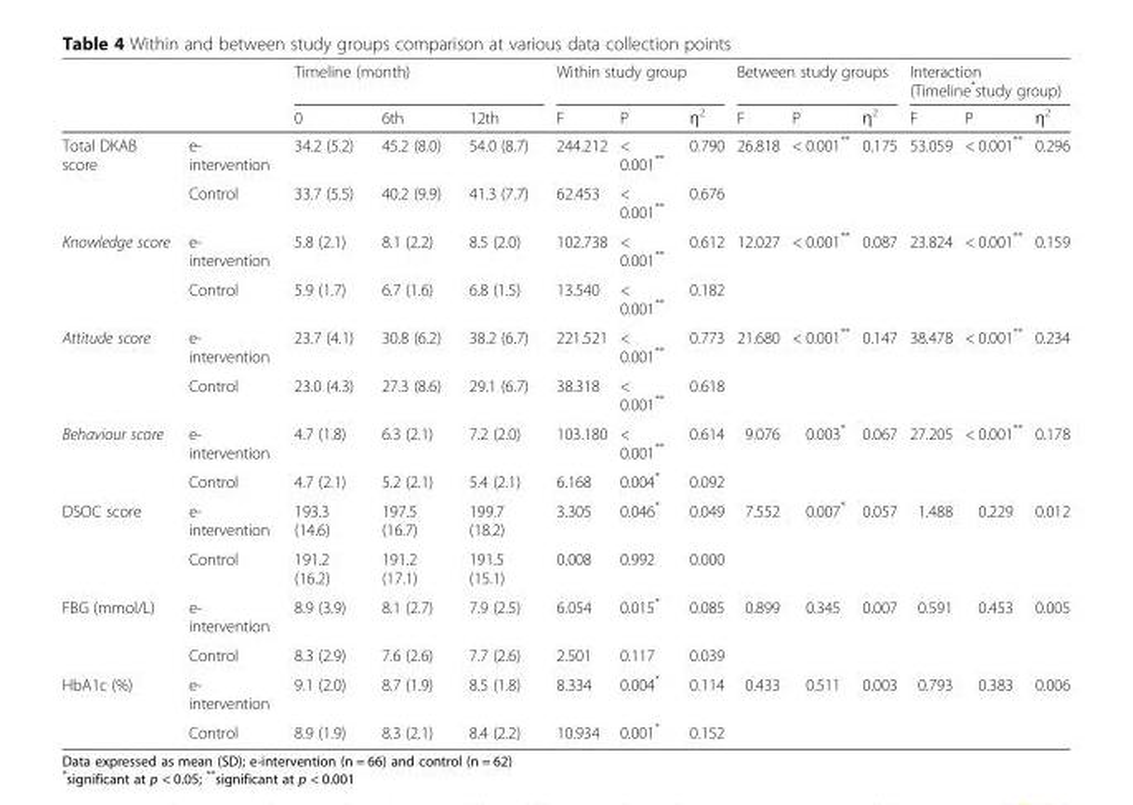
<table><thead><tr><td rowspan="2"></td><td rowspan="2"></td><td colspan="3">Timeline (month)</td><td colspan="3">Within study group</td><td colspan="3">Between study groups</td><td colspan="3">Interaction (Timeline*study group)</td></tr><tr><td>0</td><td>6th</td><td>12th</td><td>F</td><td>P</td><td>ƞ<sup>2</sup></td><td>F</td><td>P</td><td>ƞ<sup>2</sup></td><td>F</td><td>P</td><td>ƞ<sup>2</sup></td></tr></thead><tbody><tr><td rowspan="2">Total DKAB score</td><td>e- intervention</td><td>34.2 (5.2)</td><td>45.2 (8.0)</td><td>54.0 (8.7)</td><td>244.212</td><td>&lt; 0.001**</td><td>0.790</td><td>26.818</td><td>&lt; 0.001**</td><td>0.175</td><td>53.059</td><td>&lt; 0.001**</td><td>0.296</td></tr><tr><td>Control</td><td>33.7 (5.5)</td><td>40.2 (9.9)</td><td>41.3 (7.7)</td><td>62.453</td><td>&lt; 0.001**</td><td>0.676</td><td></td><td></td><td></td><td></td><td></td><td></td></tr><tr><td rowspan="2">Knowledge score</td><td>e- intervention</td><td>5.8 (2.1)</td><td>8.1 (2.2)</td><td>8.5 (2.0)</td><td>102.738</td><td>&lt; 0.001**</td><td>0.612</td><td>12.027</td><td>&lt; 0.001**</td><td>0.087</td><td>23.824</td><td>&lt; 0.001**</td><td>0.159</td></tr><tr><td>Control</td><td>5.9 (1.7)</td><td>6.7 (1.6)</td><td>6.8 (1.5)</td><td>13.540</td><td>&lt; 0.001**</td><td>0.182</td><td></td><td></td><td></td><td></td><td></td><td></td></tr><tr><td rowspan="2">Attitude score</td><td>e- intervention</td><td>23.7 (4.1)</td><td>30.8 (6.2)</td><td>38.2 (6.7)</td><td>221.521</td><td>&lt; 0.001**</td><td>0.773</td><td>21.680</td><td>&lt; 0.001**</td><td>0.147</td><td>38.478</td><td>&lt; 0.001**</td><td>0.234</td></tr><tr><td>Control</td><td>23.0 (4.3)</td><td>27.3 (8.6)</td><td>29.1 (6.7)</td><td>38.318</td><td>&lt; 0.001**</td><td>0.618</td><td></td><td></td><td></td><td></td><td></td><td></td></tr><tr><td rowspan="2">Behaviour score</td><td>e- intervention</td><td>4.7 (1.8)</td><td>6.3 (2.1)</td><td>7.2 (2.0)</td><td>103.180</td><td>&lt; 0.001**</td><td>0.614</td><td>9.076</td><td>0.003*</td><td>0.067</td><td>27.205</td><td>&lt; 0.001**</td><td>0.178</td></tr><tr><td>Control</td><td>4.7 (2.1)</td><td>5.2 (2.1)</td><td>5.4 (2.1)</td><td>6.168</td><td>0.004*</td><td>0.092</td><td></td><td></td><td></td><td></td><td></td><td></td></tr><tr><td rowspan="2">DSOC score</td><td>e- intervention</td><td>193.3 (14.6)</td><td>197.5 (16.7)</td><td>199.7 (18.2)</td><td>3.305</td><td>0.046*</td><td>0.049</td><td>7.552</td><td>0.007*</td><td>0.057</td><td>1.488</td><td>0.229</td><td>0.012</td></tr><tr><td>Control</td><td>191.2 (16.2)</td><td>191.2 (17.1)</td><td>191.5 (15.1)</td><td>0.008</td><td>0.992</td><td>0.000</td><td></td><td></td><td></td><td></td><td></td><td></td></tr><tr><td rowspan="2">FBG (mmol/L)</td><td>e- intervention</td><td>8.9 (3.9)</td><td>8.1 (2.7)</td><td>7.9 (2.5)</td><td>6.054</td><td>0.015*</td><td>0.085</td><td>0.899</td><td>0.345</td><td>0.007</td><td>0.591</td><td>0.453</td><td>0.005</td></tr><tr><td>Control</td><td>8.3 (2.9)</td><td>7.6 (2.6)</td><td>7.7 (2.6)</td><td>2.501</td><td>0.117</td><td>0.039</td><td></td><td></td><td></td><td></td><td></td><td></td></tr><tr><td rowspan="2">HbA1c (%)</td><td>e- intervention</td><td>9.1 (2.0)</td><td>8.7 (1.9)</td><td>8.5 (1.8)</td><td>8.334</td><td>0.004*</td><td>0.114</td><td>0.433</td><td>0.511</td><td>0.003</td><td>0.793</td><td>0.383</td><td>0.006</td></tr><tr><td>Control</td><td>8.9 (1.9)</td><td>8.3 (2.1)</td><td>8.4 (2.2)</td><td>10.934</td><td>0.001*</td><td>0.152</td><td></td><td></td><td></td><td></td><td></td><td></td></tr></tbody></table>